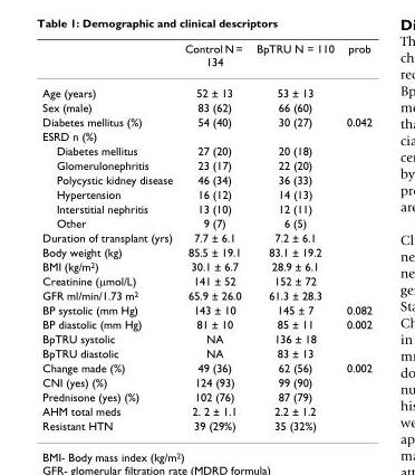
<table><thead><tr><td></td><td>Control N = 134</td><td>BpTRU N = 110</td><td>prob</td></tr></thead><tbody><tr><td>Age (years)</td><td>52 ± 13</td><td>53 ± 13</td><td></td></tr><tr><td>Sex (male)</td><td>83 (62)</td><td>66 (60)</td><td></td></tr><tr><td>Diabetes mellitus (%)</td><td>54 (40)</td><td>30 (27)</td><td>0.042</td></tr><tr><td colspan="4">ESRD n (%)</td></tr><tr><td>Diabetes mellitus</td><td>27 (20)</td><td>20 (18)</td><td></td></tr><tr><td>Glomerulonephritis</td><td>23 (17)</td><td>22 (20)</td><td></td></tr><tr><td>Polycystic kidney disease</td><td>46 (34)</td><td>36 (33)</td><td></td></tr><tr><td>Hypertension</td><td>16 (12)</td><td>14 (13)</td><td></td></tr><tr><td>Interstitial nephritis</td><td>13 (10)</td><td>12 (11)</td><td></td></tr><tr><td>Other</td><td>9 (7)</td><td>6 (5)</td><td></td></tr><tr><td>Duration of transplant (yrs)</td><td>7.7 ± 6.1</td><td>7.2 ± 6.1</td><td></td></tr><tr><td>Body weight (kg)</td><td>85.5 ± 19.1</td><td>83.1 ± 19.2</td><td></td></tr><tr><td>BMI (kg/m<sup>2</sup>)</td><td>30.1 ± 6.7</td><td>28.9 ± 6.1</td><td></td></tr><tr><td>Creatinine (µmol/L)</td><td>141 ± 52</td><td>152 ± 72</td><td></td></tr><tr><td>GFR ml/min/1.73 m<sup>2</sup></td><td>65.9 ± 26.0</td><td>61.3 ± 28.3</td><td></td></tr><tr><td>BP systolic (mm Hg)</td><td>143 ± 10</td><td>145 ± 7</td><td>0.082</td></tr><tr><td>BP diastolic (mm Hg)</td><td>81 ± 10</td><td>85 ± 11</td><td>0.002</td></tr><tr><td>BpTRU systolic</td><td>NA</td><td>136 ± 18</td><td></td></tr><tr><td>BpTRU diastolic</td><td>NA</td><td>83 ± 13</td><td></td></tr><tr><td>Change made (%)</td><td>49 (36)</td><td>62 (56)</td><td>0.002</td></tr><tr><td>CNI (yes) (%)</td><td>124 (93)</td><td>99 (90)</td><td></td></tr><tr><td>Prednisone (yes) (%)</td><td>102 (76)</td><td>87 (79)</td><td></td></tr><tr><td>AHM total meds</td><td>2. 2 ± 1.1</td><td>2.2 ± 1.2</td><td></td></tr><tr><td>Resistant HTN</td><td>39 (29%)</td><td>35 (32%)</td><td></td></tr></tbody></table>